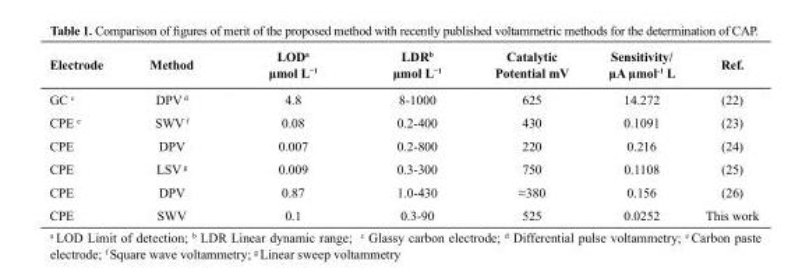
<table><thead><tr><td>Electrode</td><td>Method</td><td>LODa μmol L−1</td><td>LDRb μmol L−1</td><td>Catalytic Potential mV</td><td>Sensitivity/ µA µmol<sup>-1</sup> L</td><td>Ref.</td></tr></thead><tbody><tr><td>GC c</td><td>DPV d</td><td>4.8</td><td>8-1000</td><td>625</td><td>14.272</td><td>(22)</td></tr><tr><td>CPE e</td><td>SWV f</td><td>0.08</td><td>0.2-400</td><td>430</td><td>0.1091</td><td>(23)</td></tr><tr><td>CPE</td><td>DPV</td><td>0.007</td><td>0.2-800</td><td>220</td><td>0.216</td><td>(24)</td></tr><tr><td>CPE</td><td>LSV <sup>g</sup></td><td>0.009</td><td>0.3-300</td><td>750</td><td>0.1108</td><td>(25)</td></tr><tr><td>CPE</td><td>DPV</td><td>0.87</td><td>1.0-430</td><td>≈380</td><td>0.156</td><td>(26)</td></tr><tr><td>CPE</td><td>SWV</td><td>0.1</td><td>0.3-90</td><td>525</td><td>0.0252</td><td>This work</td></tr></tbody></table>